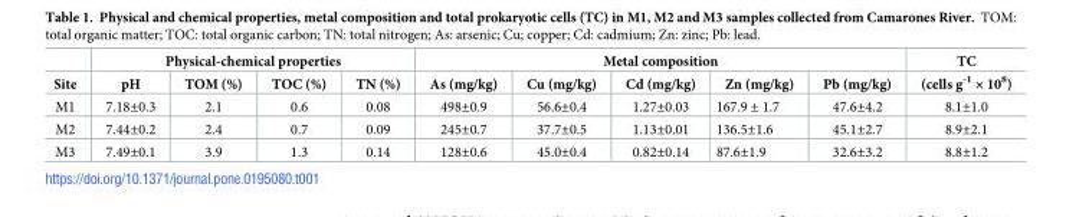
<table><thead><tr><td rowspan="2">Site</td><td colspan="4">Physical-chemical properties</td><td colspan="5">Metal composition</td><td rowspan="2">TC (cells g<sup>-1</sup> × 10<sup>8</sup>)</td></tr><tr><td>pH</td><td>TOM (%)</td><td>TOC (%)</td><td>TN (%)</td><td>As (mg/kg)</td><td>Cu (mg/kg)</td><td>Cd (mg/kg)</td><td>Zn (mg/kg)</td><td>Pb (mg/kg)</td></tr></thead><tbody><tr><td>M1</td><td>7.18±0.3</td><td>2.1</td><td>0.6</td><td>0.08</td><td>498±0.9</td><td>56.6±0.4</td><td>1.27±0.03</td><td>167.9 ± 1.7</td><td>47.6±4.2</td><td>8.1±1.0</td></tr><tr><td>M2</td><td>7.44±0.2</td><td>2.4</td><td>0.7</td><td>0.09</td><td>245±0.7</td><td>37.7±0.5</td><td>1.13±0.01</td><td>136.5±1.6</td><td>45.1±2.7</td><td>8.9±2.1</td></tr><tr><td>M3</td><td>7.49±0.1</td><td>3.9</td><td>1.3</td><td>0.14</td><td>128±0.6</td><td>45.0±0.4</td><td>0.82±0.14</td><td>87.6±1.9</td><td>32.6±3.2</td><td>8.8±1.2</td></tr></tbody></table>